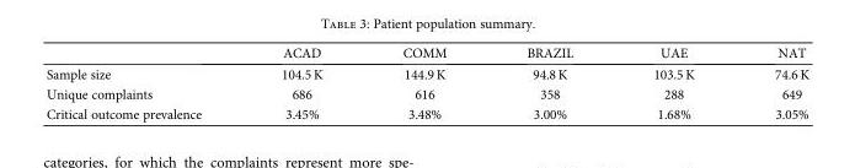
<table><thead><tr><td></td><td>ACAD</td><td>COMM</td><td>BRAZIL</td><td>UAE</td><td>NAT</td></tr></thead><tbody><tr><td>Sample size</td><td>104.5 K</td><td>144.9 K</td><td>94.8 K</td><td>103.5 K</td><td>74.6 K</td></tr><tr><td>Unique complaints</td><td>686</td><td>616</td><td>358</td><td>288</td><td>649</td></tr><tr><td>Critical outcome prevalence</td><td>3.45%</td><td>3.48%</td><td>3.00%</td><td>1.68%</td><td>3.05%</td></tr></tbody></table>